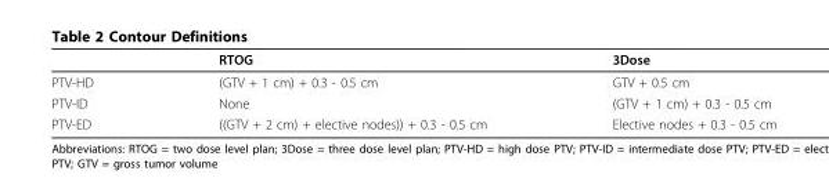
<table><thead><tr><td></td><td>RTOG</td><td>3Dose</td></tr></thead><tbody><tr><td>PTV-HD</td><td>(GTV + 1 cm) + 0.3 - 0.5 cm</td><td>GTV + 0.5 cm</td></tr><tr><td>PTV-ID</td><td>None</td><td>(GTV + 1 cm) + 0.3 - 0.5 cm</td></tr><tr><td>PTV-ED</td><td>((GTV + 2 cm) + elective nodes)) + 0.3 - 0.5 cm</td><td>Elective nodes + 0.3 - 0.5 cm</td></tr></tbody></table>